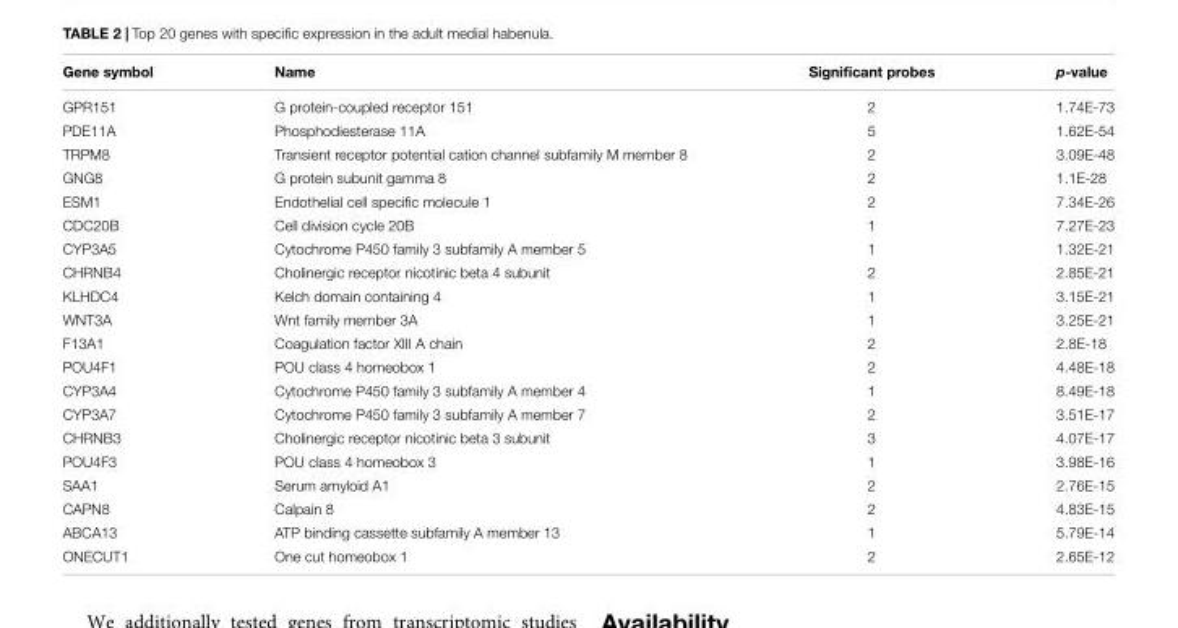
<table><thead><tr><td>Gene symbol</td><td>Name</td><td>Significant probes</td><td>p-value</td></tr></thead><tbody><tr><td>GPR151</td><td>G protein-coupled receptor 151</td><td>2</td><td>1.74E-73</td></tr><tr><td>PDE11A</td><td>Phosphodiesterase 11A</td><td>5</td><td>1.62E-54</td></tr><tr><td>TRPM8</td><td>Transient receptor potential cation channel subfamily M member 8</td><td>2</td><td>3.09E-48</td></tr><tr><td>GNG8</td><td>G protein subunit gamma 8</td><td>2</td><td>1.1E-28</td></tr><tr><td>ESM1</td><td>Endothelial cell specific molecule 1</td><td>2</td><td>7.34E-26</td></tr><tr><td>CDC20B</td><td>Cell division cycle 20B</td><td>1</td><td>7.27E-23</td></tr><tr><td>CYP3A5</td><td>Cytochrome P450 family 3 subfamily A member 5</td><td>1</td><td>1.32E-21</td></tr><tr><td>CHRNB4</td><td>Cholinergic receptor nicotinic beta 4 subunit</td><td>2</td><td>2.85E-21</td></tr><tr><td>KLHDC4</td><td>Kelch domain containing 4</td><td>1</td><td>3.15E-21</td></tr><tr><td>WNT3A</td><td>Wnt family member 3A</td><td>1</td><td>3.25E-21</td></tr><tr><td>F13A1</td><td>Coagulation factor XIII A chain</td><td>2</td><td>2.8E-18</td></tr><tr><td>POU4F1</td><td>POU class 4 homeobox 1</td><td>2</td><td>4.48E-18</td></tr><tr><td>CYP3A4</td><td>Cytochrome P450 family 3 subfamily A member 4</td><td>1</td><td>8.49E-18</td></tr><tr><td>CYP3A7</td><td>Cytochrome P450 family 3 subfamily A member 7</td><td>2</td><td>3.51E-17</td></tr><tr><td>CHRNB3</td><td>Cholinergic receptor nicotinic beta 3 subunit</td><td>3</td><td>4.07E-17</td></tr><tr><td>POU4F3</td><td>POU class 4 homeobox 3</td><td>1</td><td>3.98E-16</td></tr><tr><td>SAA1</td><td>Serum amyloid A1</td><td>2</td><td>2.76E-15</td></tr><tr><td>CAPN8</td><td>Calpain 8</td><td>2</td><td>4.83E-15</td></tr><tr><td>ABCA13</td><td>ATP binding cassette subfamily A member 13</td><td>1</td><td>5.79E-14</td></tr><tr><td>ONECUT1</td><td>One cut homeobox 1</td><td>2</td><td>2.65E-12</td></tr></tbody></table>